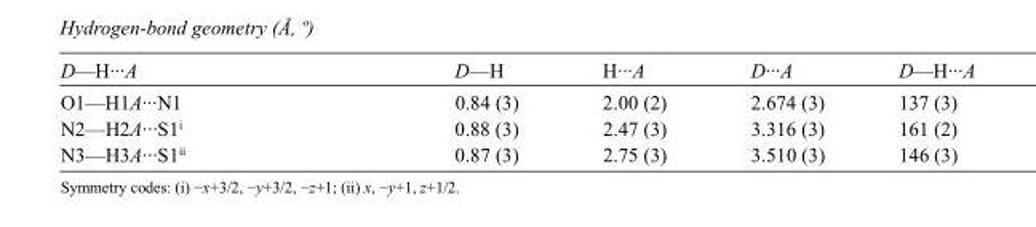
<table><tbody><tr><td>D—H···A</td><td>D—H</td><td>H···A</td><td>D···A</td><td>D—H···A</td></tr><tr><td>O1—H1A···N1</td><td>0.84 (3)</td><td>2.00 (2)</td><td>2.674 (3)</td><td>137 (3)</td></tr><tr><td>N2—H2A···S1<sup>i</sup></td><td>0.88 (3)</td><td>2.47 (3)</td><td>3.316 (3)</td><td>161 (2)</td></tr><tr><td>N3—H3A···S1<sup>ii</sup></td><td>0.87 (3)</td><td>2.75 (3)</td><td>3.510 (3)</td><td>146 (3)</td></tr></tbody></table>